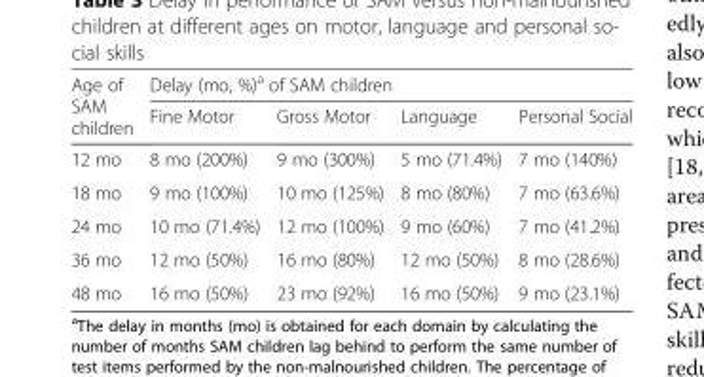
<table><thead><tr><td rowspan="2">Age of SAM children</td><td colspan="4">Delay (mo, %)<sup>a</sup> of SAM children</td></tr><tr><td>Fine Motor</td><td>Gross Motor</td><td>Language</td><td>Personal Social</td></tr></thead><tbody><tr><td>12 mo</td><td>8 mo (200%)</td><td>9 mo (300%)</td><td>5 mo (71.4%)</td><td>7 mo (140%)</td></tr><tr><td>18 mo</td><td>9 mo (100%)</td><td>10 mo (125%)</td><td>8 mo (80%)</td><td>7 mo (63.6%)</td></tr><tr><td>24 mo</td><td>10 mo (71.4%)</td><td>12 mo (100%)</td><td>9 mo (60%)</td><td>7 mo (41.2%)</td></tr><tr><td>36 mo</td><td>12 mo (50%)</td><td>16 mo (80%)</td><td>12 mo (50%)</td><td>8 mo (28.6%)</td></tr><tr><td>48 mo</td><td>16 mo (50%)</td><td>23 mo (92%)</td><td>16 mo (50%)</td><td>9 mo (23.1%)</td></tr></tbody></table>